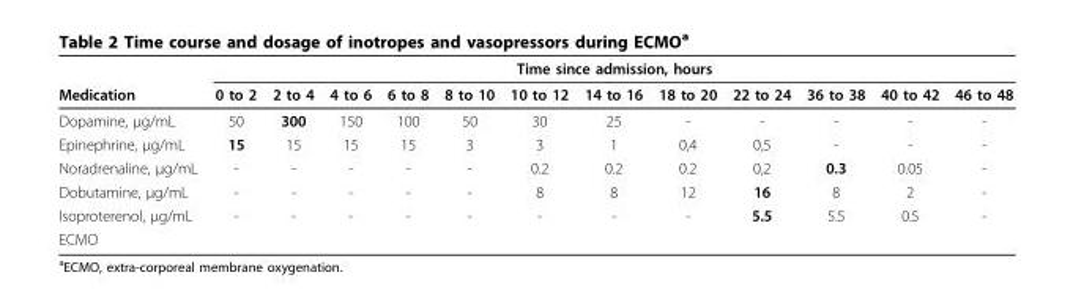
<table><thead><tr><td rowspan="2">Medication</td><td colspan="12">Time since admission, hours</td></tr><tr><td>0 to 2</td><td>2 to 4</td><td>4 to 6</td><td>6 to 8</td><td>8 to 10</td><td>10 to 12</td><td>14 to 16</td><td>18 to 20</td><td>22 to 24</td><td>36 to 38</td><td>40 to 42</td><td>46 to 48</td></tr></thead><tbody><tr><td>Dopamine, μg/mL</td><td>50</td><td>300</td><td>150</td><td>100</td><td>50</td><td>30</td><td>25</td><td>-</td><td>-</td><td>-</td><td>-</td><td>-</td></tr><tr><td>Epinephrine, μg/mL</td><td>15</td><td>15</td><td>15</td><td>15</td><td>3</td><td>3</td><td>1</td><td>0,4</td><td>0,5</td><td>-</td><td>-</td><td>-</td></tr><tr><td>Noradrenaline, μg/mL</td><td>-</td><td>-</td><td>-</td><td>-</td><td>-</td><td>0.2</td><td>0.2</td><td>0.2</td><td>0,2</td><td>0.3</td><td>0.05</td><td>-</td></tr><tr><td>Dobutamine, μg/mL</td><td>-</td><td>-</td><td>-</td><td>-</td><td>-</td><td>8</td><td>8</td><td>12</td><td>16</td><td>8</td><td>2</td><td>-</td></tr><tr><td>Isoproterenol, μg/mL</td><td>-</td><td>-</td><td>-</td><td>-</td><td>-</td><td>-</td><td>-</td><td>-</td><td>5.5</td><td>5.5</td><td>0.5</td><td>-</td></tr><tr><td>ECMO</td><td></td><td></td><td></td><td></td><td></td><td></td><td></td><td></td><td></td><td></td><td></td><td></td></tr></tbody></table>